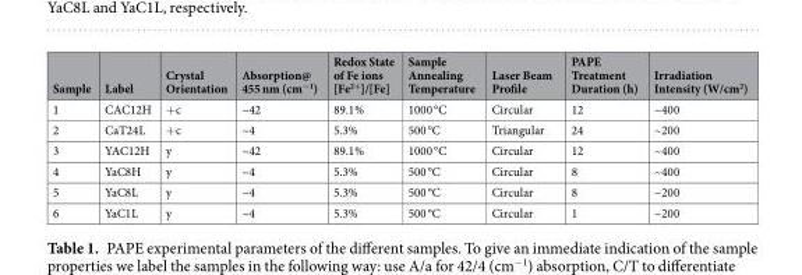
<table><thead><tr><td>Sample</td><td>Label</td><td>Crystal Orientation</td><td>Absorption@ 455 nm (cm<sup>−1</sup>)</td><td>Redox State of Fe ions [Fe<sup>2+</sup>]/[Fe]</td><td>Sample Annealing Temperature</td><td>Laser Beam Profile</td><td>PAPE Treatment Duration (h)</td><td>Irradiation Intensity (W/cm<sup>2</sup>)</td></tr></thead><tbody><tr><td>1</td><td>CAC12H</td><td>+c</td><td>~42</td><td>89.1%</td><td>1000 °C</td><td>Circular</td><td>12</td><td>~400</td></tr><tr><td>2</td><td>CaT24L</td><td>+c</td><td>~4</td><td>5.3%</td><td>500 °C</td><td>Triangular</td><td>24</td><td>~200</td></tr><tr><td>3</td><td>YAC12H</td><td>y</td><td>~42</td><td>89.1%</td><td>1000 °C</td><td>Circular</td><td>12</td><td>~400</td></tr><tr><td>4</td><td>YaC8H</td><td>y</td><td>~4</td><td>5.3%</td><td>500 °C</td><td>Circular</td><td>8</td><td>~400</td></tr><tr><td>5</td><td>YaC8L</td><td>y</td><td>~4</td><td>5.3%</td><td>500 °C</td><td>Circular</td><td>8</td><td>~200</td></tr><tr><td>6</td><td>YaC1L</td><td>y</td><td>~4</td><td>5.3%</td><td>500 °C</td><td>Circular</td><td>1</td><td>~200</td></tr></tbody></table>